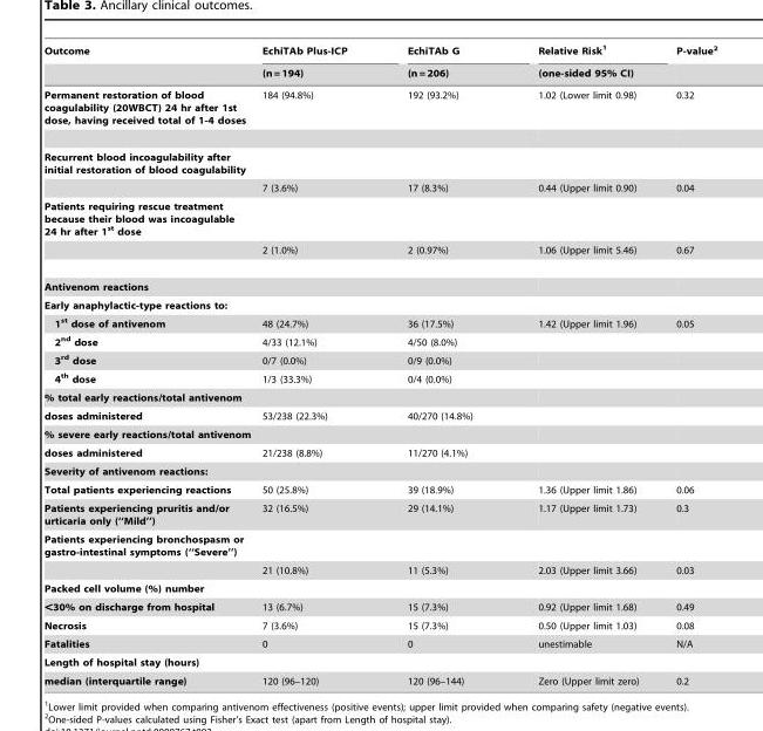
<table><thead><tr><td rowspan="2">Outcome</td><td rowspan="2">EchiTAb Plus-ICP (n = 194)</td><td rowspan="2">EchiTAb G (n = 206)</td><td rowspan="2">Relative Risk<sup>1</sup> (one-sided 95% CI)</td><td rowspan="2">P-value<sup>2</sup></td></tr><tr></tr></thead><tbody><tr><td>Permanent restoration of blood coagulability (20WBCT) 24 hr after 1st dose, having received total of 1-4 doses</td><td>184 (94.8%)</td><td>192 (93.2%)</td><td>1.02 (Lower limit 0.98)</td><td>0.32</td></tr><tr><td colspan="5">Recurrent blood incoagulability after initial restoration of blood coagulability</td></tr><tr><td></td><td>7 (3.6%)</td><td>17 (8.3%)</td><td>0.44 (Upper limit 0.90)</td><td>0.04</td></tr><tr><td colspan="5">Patients requiring rescue treatment because their blood was incoagulable 24 hr after 1<sup>st</sup> dose</td></tr><tr><td></td><td>2 (1.0%)</td><td>2 (0.97%)</td><td>1.06 (Upper limit 5.46)</td><td>0.67</td></tr><tr><td colspan="5">Antivenom reactions</td></tr><tr><td colspan="5">Early anaphylactic-type reactions to:</td></tr><tr><td>1<sup>st</sup> dose of antivenom</td><td>48 (24.7%)</td><td>36 (17.5%)</td><td>1.42 (Upper limit 1.96)</td><td>0.05</td></tr><tr><td>2<sup>nd</sup> dose</td><td>4/33 (12.1%)</td><td>4/50 (8.0%)</td><td></td><td></td></tr><tr><td>3<sup>rd</sup> dose</td><td>0/7 (0.0%)</td><td>0/9 (0.0%)</td><td></td><td></td></tr><tr><td>4<sup>th</sup> dose</td><td>1/3 (33.3%)</td><td>0/4 (0.0%)</td><td></td><td></td></tr><tr><td colspan="5">% total early reactions/total antivenom</td></tr><tr><td>doses administered</td><td>53/238 (22.3%)</td><td>40/270 (14.8%)</td><td></td><td></td></tr><tr><td colspan="5">% severe early reactions/total antivenom</td></tr><tr><td>doses administered</td><td>21/238 (8.8%)</td><td>11/270 (4.1%)</td><td></td><td></td></tr><tr><td colspan="5">Severity of antivenom reactions:</td></tr><tr><td>Total patients experiencing reactions</td><td>50 (25.8%)</td><td>39 (18.9%)</td><td>1.36 (Upper limit 1.86)</td><td>0.06</td></tr><tr><td>Patients experiencing pruritis and/or urticaria only (‘‘Mild’’)</td><td>32 (16.5%)</td><td>29 (14.1%)</td><td>1.17 (Upper limit 1.73)</td><td>0.3</td></tr><tr><td colspan="5">Patients experiencing bronchospasm or gastro-intestinal symptoms (‘‘Severe’’)</td></tr><tr><td></td><td>21 (10.8%)</td><td>11 (5.3%)</td><td>2.03 (Upper limit 3.66)</td><td>0.03</td></tr><tr><td colspan="5">Packed cell volume (%) number</td></tr><tr><td>&lt;30% on discharge from hospital</td><td>13 (6.7%)</td><td>15 (7.3%)</td><td>0.92 (Upper limit 1.68)</td><td>0.49</td></tr><tr><td>Necrosis</td><td>7 (3.6%)</td><td>15 (7.3%)</td><td>0.50 (Upper limit 1.03)</td><td>0.08</td></tr><tr><td>Fatalities</td><td>0</td><td>0</td><td>unestimable</td><td>N/A</td></tr><tr><td colspan="5">Length of hospital stay (hours)</td></tr><tr><td>median (interquartile range)</td><td>120 (96–120)</td><td>120 (96–144)</td><td>Zero (Upper limit zero)</td><td>0.2</td></tr></tbody></table>